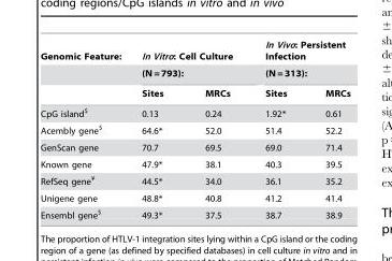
<table><thead><tr><td rowspan="3">Genomic Feature:</td><td rowspan="2" colspan="2">In Vitro: Cell Culture (N = 793):</td><td rowspan="2" colspan="2">In Vivo: Persistent Infection (N = 313):</td></tr><tr></tr><tr><td>Sites</td><td>MRCs</td><td>Sites</td><td>MRCs</td></tr></thead><tbody><tr><td>CpG island$</td><td>0.13</td><td>0.24</td><td>1.92*</td><td>0.61</td></tr><tr><td>Acembly gene$</td><td>64.6*</td><td>52.0</td><td>51.4</td><td>52.2</td></tr><tr><td>GenScan gene</td><td>70.7</td><td>69.5</td><td>69.0</td><td>71.4</td></tr><tr><td>Known gene</td><td>47.9*</td><td>38.1</td><td>40.3</td><td>39.5</td></tr><tr><td>RefSeq gene¥</td><td>44.5*</td><td>34.0</td><td>36.1</td><td>35.2</td></tr><tr><td>Unigene gene</td><td>48.8*</td><td>40.8</td><td>41.2</td><td>41.4</td></tr><tr><td>Ensembl gene$</td><td>49.3*</td><td>37.5</td><td>38.7</td><td>38.9</td></tr></tbody></table>